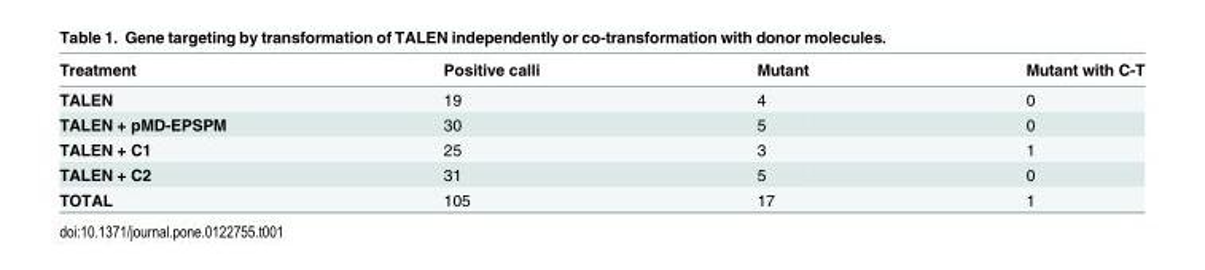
<table><thead><tr><td>Treatment</td><td>Positive calli</td><td>Mutant</td><td>Mutant with C-T</td></tr></thead><tbody><tr><td>TALEN</td><td>19</td><td>4</td><td>0</td></tr><tr><td>TALEN + pMD-EPSPM</td><td>30</td><td>5</td><td>0</td></tr><tr><td>TALEN + C1</td><td>25</td><td>3</td><td>1</td></tr><tr><td>TALEN + C2</td><td>31</td><td>5</td><td>0</td></tr><tr><td>TOTAL</td><td>105</td><td>17</td><td>1</td></tr></tbody></table>